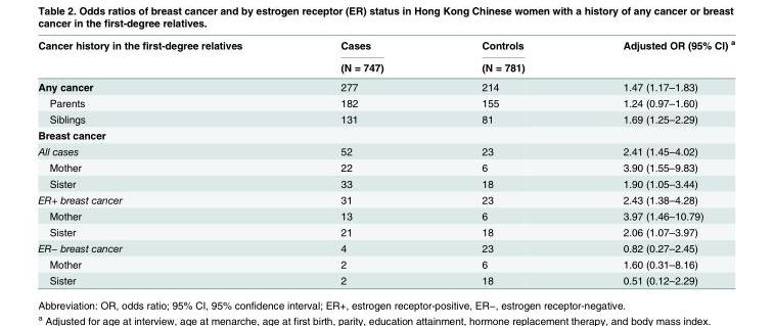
<table><thead><tr><td rowspan="2">Cancer history in the first-degree relatives</td><td rowspan="2">Cases (N = 747)</td><td rowspan="2">Controls (N = 781)</td><td rowspan="2">Adjusted OR (95% CI) <sup>a</sup></td></tr><tr></tr></thead><tbody><tr><td>Any cancer</td><td>277</td><td>214</td><td>1.47 (1.17–1.83)</td></tr><tr><td>Parents</td><td>182</td><td>155</td><td>1.24 (0.97–1.60)</td></tr><tr><td>Siblings</td><td>131</td><td>81</td><td>1.69 (1.25–2.29)</td></tr><tr><td colspan="4">Breast cancer</td></tr><tr><td>All cases</td><td>52</td><td>23</td><td>2.41 (1.45–4.02)</td></tr><tr><td>Mother</td><td>22</td><td>6</td><td>3.90 (1.55–9.83)</td></tr><tr><td>Sister</td><td>33</td><td>18</td><td>1.90 (1.05–3.44)</td></tr><tr><td>ER+ breast cancer</td><td>31</td><td>23</td><td>2.43 (1.38–4.28)</td></tr><tr><td>Mother</td><td>13</td><td>6</td><td>3.97 (1.46–10.79)</td></tr><tr><td>Sister</td><td>21</td><td>18</td><td>2.06 (1.07–3.97)</td></tr><tr><td>ER− breast cancer</td><td>4</td><td>23</td><td>0.82 (0.27–2.45)</td></tr><tr><td>Mother</td><td>2</td><td>6</td><td>1.60 (0.31–8.16)</td></tr><tr><td>Sister</td><td>2</td><td>18</td><td>0.51 (0.12–2.29)</td></tr></tbody></table>